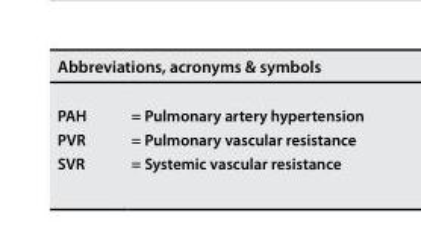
<table><thead><tr><td colspan="2">Abbreviations, acronyms &amp; symbols</td></tr><tr><td>PAH</td><td>= Pulmonary artery hypertension</td></tr></thead><tbody><tr><td>PVR</td><td>= Pulmonary vascular resistance</td></tr><tr><td>SVR</td><td>= Systemic vascular resistance</td></tr></tbody></table>